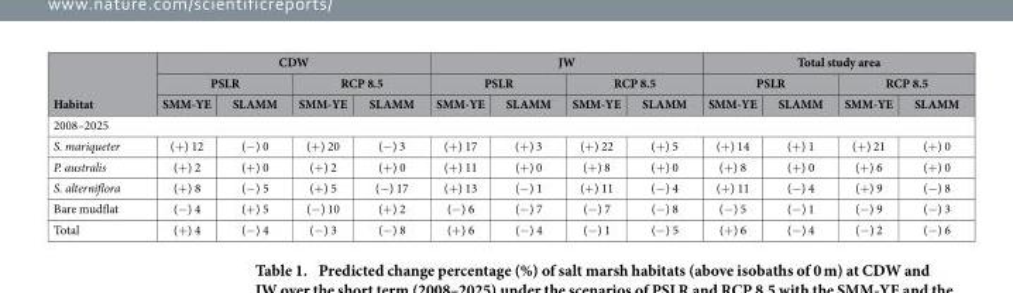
<table><thead><tr><td rowspan="3">Habitat</td><td colspan="4">CDW</td><td colspan="4">JW</td><td colspan="4">Total study area</td></tr><tr><td colspan="2">PSLR</td><td colspan="2">RCP 8.5</td><td colspan="2">PSLR</td><td colspan="2">RCP 8.5</td><td colspan="2">PSLR</td><td colspan="2">RCP 8.5</td></tr><tr><td>SMM-YE</td><td>SLAMM</td><td>SMM-YE</td><td>SLAMM</td><td>SMM-YE</td><td>SLAMM</td><td>SMM-YE</td><td>SLAMM</td><td>SMM-YE</td><td>SLAMM</td><td>SMM-YE</td><td>SLAMM</td></tr></thead><tbody><tr><td colspan="13">2008–2025</td></tr><tr><td>S. mariqueter</td><td>(+ ) 12</td><td>(− ) 0</td><td>(+ ) 20</td><td>(− ) 3</td><td>(+ ) 17</td><td>(+ ) 3</td><td>(+ ) 22</td><td>(+ ) 5</td><td>(+ ) 14</td><td>(+ ) 1</td><td>(+ ) 21</td><td>(+ ) 0</td></tr><tr><td>P. australis</td><td>(+ ) 2</td><td>(+ ) 0</td><td>(+ ) 2</td><td>(+ ) 0</td><td>(+ ) 11</td><td>(+ ) 0</td><td>(+ ) 8</td><td>(+ ) 0</td><td>(+ ) 8</td><td>(+ ) 0</td><td>(+ ) 6</td><td>(+ ) 0</td></tr><tr><td>S. alterniflora</td><td>(+ ) 8</td><td>(− ) 5</td><td>(+ ) 5</td><td>(− ) 17</td><td>(+ ) 13</td><td>(− ) 1</td><td>(+ ) 11</td><td>(− ) 4</td><td>(+ ) 11</td><td>(− ) 4</td><td>(+ ) 9</td><td>(− ) 8</td></tr><tr><td>Bare mudflat</td><td>(− ) 4</td><td>(+ ) 5</td><td>(− ) 10</td><td>(+ ) 2</td><td>(− ) 6</td><td>(− ) 7</td><td>(− ) 7</td><td>(− ) 8</td><td>(− ) 5</td><td>(− ) 1</td><td>(− ) 9</td><td>(− ) 3</td></tr><tr><td>Total</td><td>(+ ) 4</td><td>(− ) 4</td><td>(− ) 3</td><td>(− ) 8</td><td>(+ ) 6</td><td>(− ) 4</td><td>(− ) 1</td><td>(− ) 5</td><td>(+ ) 6</td><td>(− ) 4</td><td>(− ) 2</td><td>(− ) 6</td></tr></tbody></table>